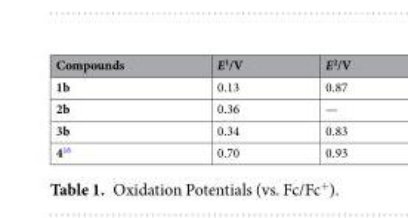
<table><thead><tr><td>Compounds</td><td>E<sup>1</sup>/V</td><td>E<sup>2</sup>/V</td></tr></thead><tbody><tr><td>1b</td><td>0.13</td><td>0.87</td></tr><tr><td>2b</td><td>0.36</td><td>—</td></tr><tr><td>3b</td><td>0.34</td><td>0.83</td></tr><tr><td>4<sup>16</sup></td><td>0.70</td><td>0.93</td></tr></tbody></table>